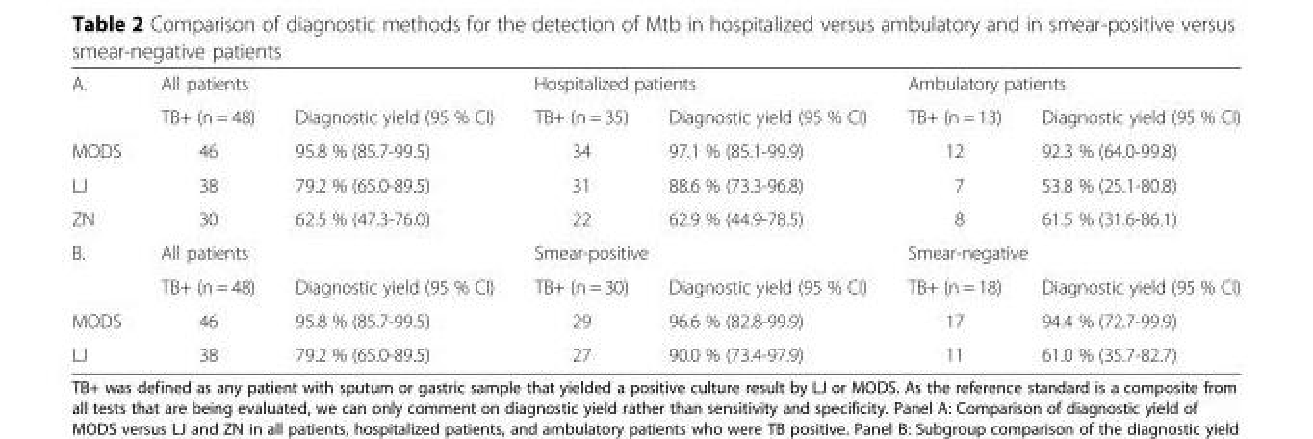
<table><tbody><tr><td rowspan="2">A.</td><td colspan="2">All patients</td><td colspan="2">Hospitalized patients</td><td colspan="2">Ambulatory patients</td></tr><tr><td>TB+ (n = 48)</td><td>Diagnostic yield (95 % CI)</td><td>TB+ (n = 35)</td><td>Diagnostic yield (95 % CI)</td><td>TB+ (n = 13)</td><td>Diagnostic yield (95 % CI)</td></tr><tr><td>MODS</td><td>46</td><td>95.8 % (85.7-99.5)</td><td>34</td><td>97.1 % (85.1-99.9)</td><td>12</td><td>92.3 % (64.0-99.8)</td></tr><tr><td>LJ</td><td>38</td><td>79.2 % (65.0-89.5)</td><td>31</td><td>88.6 % (73.3-96.8)</td><td>7</td><td>53.8 % (25.1-80.8)</td></tr><tr><td>ZN</td><td>30</td><td>62.5 % (47.3-76.0)</td><td>22</td><td>62.9 % (44.9-78.5)</td><td>8</td><td>61.5 % (31.6-86.1)</td></tr><tr><td rowspan="2">B.</td><td colspan="2">All patients</td><td colspan="2">Smear-positive</td><td colspan="2">Smear-negative</td></tr><tr><td>TB+ (n = 48)</td><td>Diagnostic yield (95 % CI)</td><td>TB+ (n = 30)</td><td>Diagnostic yield (95 % CI)</td><td>TB+ (n = 18)</td><td>Diagnostic yield (95 % CI)</td></tr><tr><td>MODS</td><td>46</td><td>95.8 % (85.7-99.5)</td><td>29</td><td>96.6 % (82.8-99.9)</td><td>17</td><td>94.4 % (72.7-99.9)</td></tr><tr><td>LJ</td><td>38</td><td>79.2 % (65.0-89.5)</td><td>27</td><td>90.0 % (73.4-97.9)</td><td>11</td><td>61.0 % (35.7-82.7)</td></tr></tbody></table>